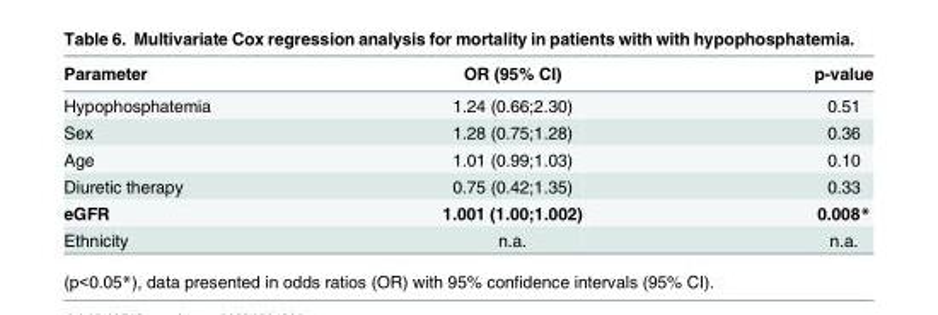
<table><thead><tr><td>Parameter</td><td>OR (95% CI)</td><td>p-value</td></tr></thead><tbody><tr><td>Hypophosphatemia</td><td>1.24 (0.66;2.30)</td><td>0.51</td></tr><tr><td>Sex</td><td>1.28 (0.75;1.28)</td><td>0.36</td></tr><tr><td>Age</td><td>1.01 (0.99;1.03)</td><td>0.10</td></tr><tr><td>Diuretic therapy</td><td>0.75 (0.42;1.35)</td><td>0.33</td></tr><tr><td>eGFR</td><td>1.001 (1.00;1.002)</td><td>0.008*</td></tr><tr><td>Ethnicity</td><td>n.a.</td><td>n.a.</td></tr></tbody></table>